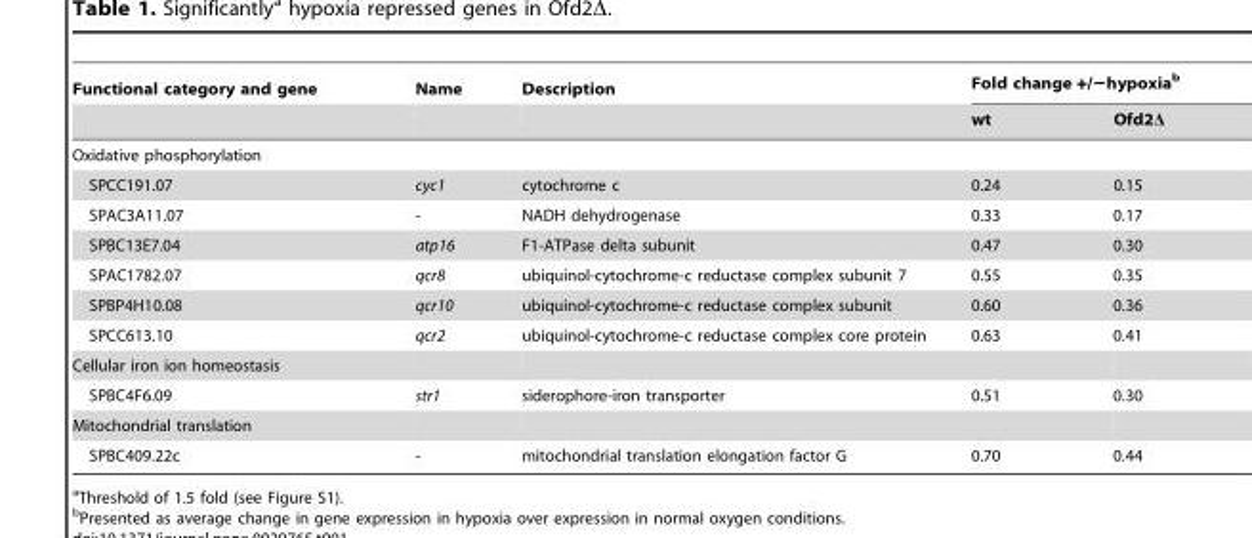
<table><thead><tr><td rowspan="2">Functional category and gene</td><td rowspan="2">Name</td><td rowspan="2">Description</td><td colspan="2">Fold change +/−hypoxia<sup>b</sup></td></tr><tr><td>wt</td><td>Ofd2Δ</td></tr></thead><tbody><tr><td colspan="5">Oxidative phosphorylation</td></tr><tr><td>SPCC191.07</td><td>cyc1</td><td>cytochrome c</td><td>0.24</td><td>0.15</td></tr><tr><td>SPAC3A11.07</td><td>-</td><td>NADH dehydrogenase</td><td>0.33</td><td>0.17</td></tr><tr><td>SPBC13E7.04</td><td>atp16</td><td>F1-ATPase delta subunit</td><td>0.47</td><td>0.30</td></tr><tr><td>SPAC1782.07</td><td>qcr8</td><td>ubiquinol-cytochrome-c reductase complex subunit 7</td><td>0.55</td><td>0.35</td></tr><tr><td>SPBP4H10.08</td><td>qcr10</td><td>ubiquinol-cytochrome-c reductase complex subunit</td><td>0.60</td><td>0.36</td></tr><tr><td>SPCC613.10</td><td>qcr2</td><td>ubiquinol-cytochrome-c reductase complex core protein</td><td>0.63</td><td>0.41</td></tr><tr><td colspan="5">Cellular iron ion homeostasis</td></tr><tr><td>SPBC4F6.09</td><td>str1</td><td>siderophore-iron transporter</td><td>0.51</td><td>0.30</td></tr><tr><td colspan="5">Mitochondrial translation</td></tr><tr><td>SPBC409.22c</td><td>-</td><td>mitochondrial translation elongation factor G</td><td>0.70</td><td>0.44</td></tr></tbody></table>